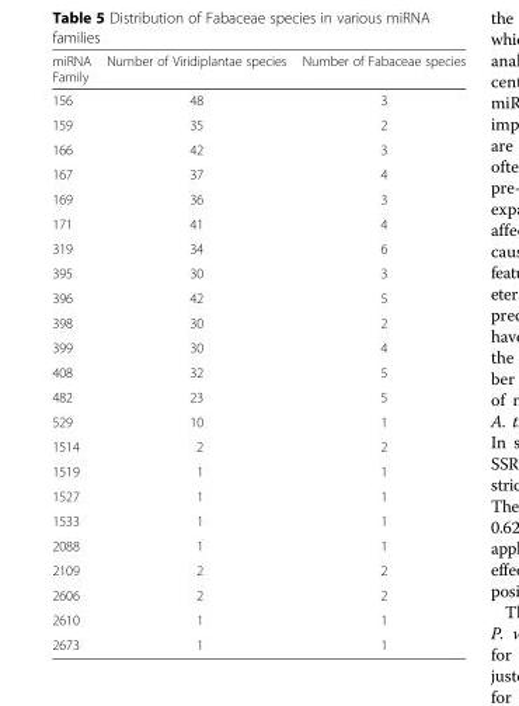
<table><thead><tr><td>miRNA Family</td><td>Number of Viridiplantae species</td><td>Number of Fabaceae species</td></tr></thead><tbody><tr><td>156</td><td>48</td><td>3</td></tr><tr><td>159</td><td>35</td><td>2</td></tr><tr><td>166</td><td>42</td><td>3</td></tr><tr><td>167</td><td>37</td><td>4</td></tr><tr><td>169</td><td>36</td><td>3</td></tr><tr><td>171</td><td>41</td><td>4</td></tr><tr><td>319</td><td>34</td><td>6</td></tr><tr><td>395</td><td>30</td><td>3</td></tr><tr><td>396</td><td>42</td><td>5</td></tr><tr><td>398</td><td>30</td><td>2</td></tr><tr><td>399</td><td>30</td><td>4</td></tr><tr><td>408</td><td>32</td><td>5</td></tr><tr><td>482</td><td>23</td><td>5</td></tr><tr><td>529</td><td>10</td><td>1</td></tr><tr><td>1514</td><td>2</td><td>2</td></tr><tr><td>1519</td><td>1</td><td>1</td></tr><tr><td>1527</td><td>1</td><td>1</td></tr><tr><td>1533</td><td>1</td><td>1</td></tr><tr><td>2088</td><td>1</td><td>1</td></tr><tr><td>2109</td><td>2</td><td>2</td></tr><tr><td>2606</td><td>2</td><td>2</td></tr><tr><td>2610</td><td>1</td><td>1</td></tr><tr><td>2673</td><td>1</td><td>1</td></tr></tbody></table>